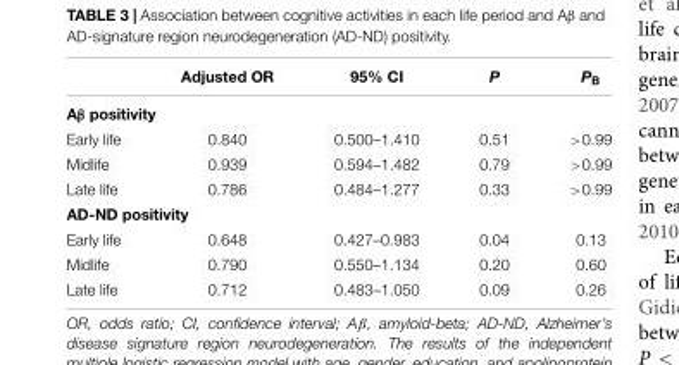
<table><thead><tr><td></td><td>Adjusted OR</td><td>95% CI</td><td>P</td><td>P<sub>B</sub></td></tr></thead><tbody><tr><td colspan="5">Aβ positivity</td></tr><tr><td>Early life</td><td>0.840</td><td>0.500–1.410</td><td>0.51</td><td>&gt;0.99</td></tr><tr><td>Midlife</td><td>0.939</td><td>0.594–1.482</td><td>0.79</td><td>&gt;0.99</td></tr><tr><td>Late life</td><td>0.786</td><td>0.484–1.277</td><td>0.33</td><td>&gt;0.99</td></tr><tr><td colspan="5">AD-ND positivity</td></tr><tr><td>Early life</td><td>0.648</td><td>0.427–0.983</td><td>0.04</td><td>0.13</td></tr><tr><td>Midlife</td><td>0.790</td><td>0.550–1.134</td><td>0.20</td><td>0.60</td></tr><tr><td>Late life</td><td>0.712</td><td>0.483–1.050</td><td>0.09</td><td>0.26</td></tr></tbody></table>